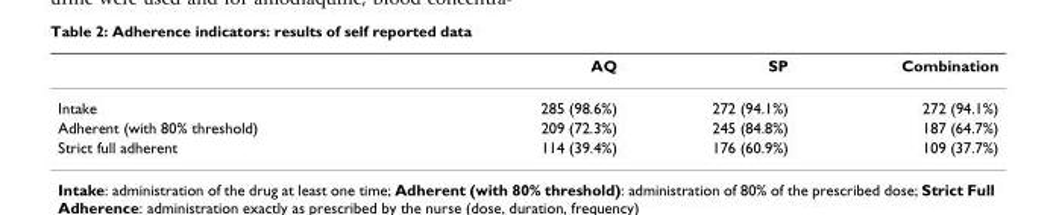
<table><thead><tr><td></td><td>AQ</td><td>SP</td><td>Combination</td></tr></thead><tbody><tr><td>Intake</td><td>285 (98.6%)</td><td>272 (94.1%)</td><td>272 (94.1%)</td></tr><tr><td>Adherent (with 80% threshold)</td><td>209 (72.3%)</td><td>245 (84.8%)</td><td>187 (64.7%)</td></tr><tr><td>Strict full adherent</td><td>114 (39.4%)</td><td>176 (60.9%)</td><td>109 (37.7%)</td></tr></tbody></table>